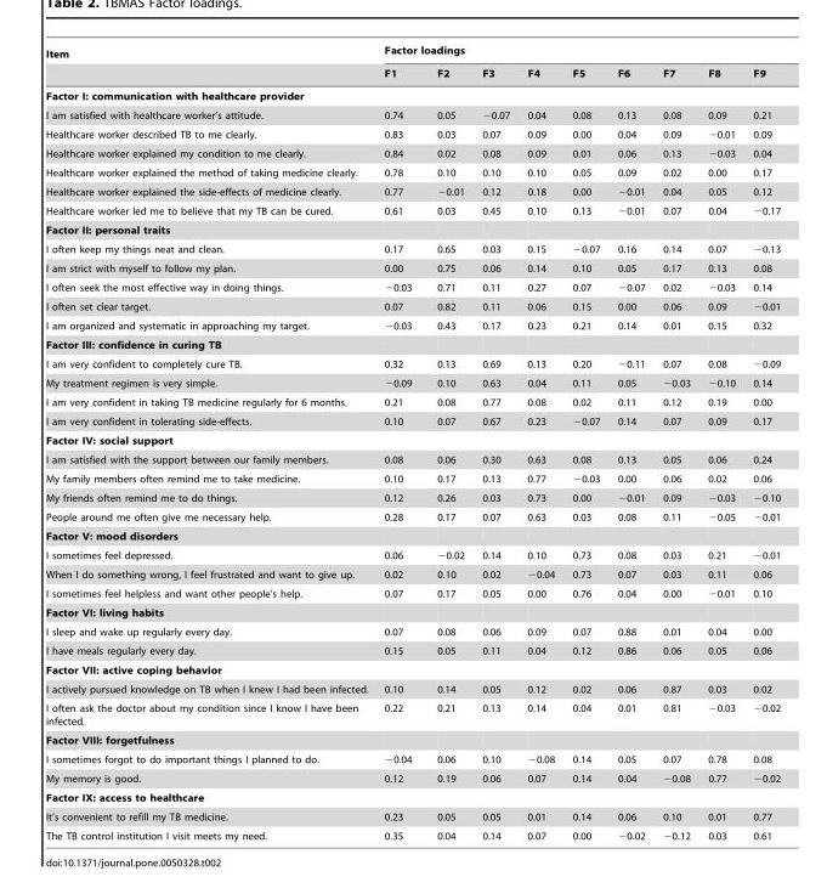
<table><thead><tr><td rowspan="2">Item</td><td colspan="9">Factor loadings</td></tr><tr><td>F1</td><td>F2</td><td>F3</td><td>F4</td><td>F5</td><td>F6</td><td>F7</td><td>F8</td><td>F9</td></tr></thead><tbody><tr><td colspan="10">Factor I: communication with healthcare provider</td></tr><tr><td>I am satisfied with healthcare worker’s attitude.</td><td>0.74</td><td>0.05</td><td>−0.07</td><td>0.04</td><td>0.08</td><td>0.13</td><td>0.08</td><td>0.09</td><td>0.21</td></tr><tr><td>Healthcare worker described TB to me clearly.</td><td>0.83</td><td>0.03</td><td>0.07</td><td>0.09</td><td>0.00</td><td>0.04</td><td>0.09</td><td>−0.01</td><td>0.09</td></tr><tr><td>Healthcare worker explained my condition to me clearly.</td><td>0.84</td><td>0.02</td><td>0.08</td><td>0.09</td><td>0.01</td><td>0.06</td><td>0.13</td><td>−0.03</td><td>0.04</td></tr><tr><td>Healthcare worker explained the method of taking medicine clearly.</td><td>0.78</td><td>0.10</td><td>0.10</td><td>0.10</td><td>0.05</td><td>0.09</td><td>0.02</td><td>0.00</td><td>0.17</td></tr><tr><td>Healthcare worker explained the side-effects of medicine clearly.</td><td>0.77</td><td>−0.01</td><td>0.12</td><td>0.18</td><td>0.00</td><td>−0.01</td><td>0.04</td><td>0.05</td><td>0.12</td></tr><tr><td>Healthcare worker led me to believe that my TB can be cured.</td><td>0.61</td><td>0.03</td><td>0.45</td><td>0.10</td><td>0.13</td><td>−0.01</td><td>0.07</td><td>0.04</td><td>−0.17</td></tr><tr><td colspan="10">Factor II: personal traits</td></tr><tr><td>I often keep my things neat and clean.</td><td>0.17</td><td>0.65</td><td>0.03</td><td>0.15</td><td>−0.07</td><td>0.16</td><td>0.14</td><td>0.07</td><td>−0.13</td></tr><tr><td>I am strict with myself to follow my plan.</td><td>0.00</td><td>0.75</td><td>0.06</td><td>0.14</td><td>0.10</td><td>0.05</td><td>0.17</td><td>0.13</td><td>0.08</td></tr><tr><td>I often seek the most effective way in doing things.</td><td>−0.03</td><td>0.71</td><td>0.11</td><td>0.27</td><td>0.07</td><td>−0.07</td><td>0.02</td><td>−0.03</td><td>0.14</td></tr><tr><td>I often set clear target.</td><td>0.07</td><td>0.82</td><td>0.11</td><td>0.06</td><td>0.15</td><td>0.00</td><td>0.06</td><td>0.09</td><td>−0.01</td></tr><tr><td>I am organized and systematic in approaching my target.</td><td>−0.03</td><td>0.43</td><td>0.17</td><td>0.23</td><td>0.21</td><td>0.14</td><td>0.01</td><td>0.15</td><td>0.32</td></tr><tr><td colspan="10">Factor III: confidence in curing TB</td></tr><tr><td>I am very confident to completely cure TB.</td><td>0.32</td><td>0.13</td><td>0.69</td><td>0.13</td><td>0.20</td><td>−0.11</td><td>0.07</td><td>0.08</td><td>−0.09</td></tr><tr><td>My treatment regimen is very simple.</td><td>−0.09</td><td>0.10</td><td>0.63</td><td>0.04</td><td>0.11</td><td>0.05</td><td>−0.03</td><td>−0.10</td><td>0.14</td></tr><tr><td>I am very confident in taking TB medicine regularly for 6 months.</td><td>0.21</td><td>0.08</td><td>0.77</td><td>0.08</td><td>0.02</td><td>0.11</td><td>0.12</td><td>0.19</td><td>0.00</td></tr><tr><td>I am very confident in tolerating side-effects.</td><td>0.10</td><td>0.07</td><td>0.67</td><td>0.23</td><td>−0.07</td><td>0.14</td><td>0.07</td><td>0.09</td><td>0.17</td></tr><tr><td colspan="10">Factor IV: social support</td></tr><tr><td>I am satisfied with the support between our family members.</td><td>0.08</td><td>0.06</td><td>0.30</td><td>0.63</td><td>0.08</td><td>0.13</td><td>0.05</td><td>0.06</td><td>0.24</td></tr><tr><td>My family members often remind me to take medicine.</td><td>0.10</td><td>0.17</td><td>0.13</td><td>0.77</td><td>−0.03</td><td>0.00</td><td>0.06</td><td>0.02</td><td>0.06</td></tr><tr><td>My friends often remind me to do things.</td><td>0.12</td><td>0.26</td><td>0.03</td><td>0.73</td><td>0.00</td><td>−0.01</td><td>0.09</td><td>−0.03</td><td>−0.10</td></tr><tr><td>People around me often give me necessary help.</td><td>0.28</td><td>0.17</td><td>0.07</td><td>0.63</td><td>0.03</td><td>0.08</td><td>0.11</td><td>−0.05</td><td>−0.01</td></tr><tr><td colspan="10">Factor V: mood disorders</td></tr><tr><td>I sometimes feel depressed.</td><td>0.06</td><td>−0.02</td><td>0.14</td><td>0.10</td><td>0.73</td><td>0.08</td><td>0.03</td><td>0.21</td><td>−0.01</td></tr><tr><td>When I do something wrong, I feel frustrated and want to give up.</td><td>0.02</td><td>0.10</td><td>0.02</td><td>−0.04</td><td>0.73</td><td>0.07</td><td>0.03</td><td>0.11</td><td>0.06</td></tr><tr><td>I sometimes feel helpless and want other people’s help.</td><td>0.07</td><td>0.17</td><td>0.05</td><td>0.00</td><td>0.76</td><td>0.04</td><td>0.00</td><td>−0.01</td><td>0.10</td></tr><tr><td colspan="10">Factor VI: living habits</td></tr><tr><td>I sleep and wake up regularly every day.</td><td>0.07</td><td>0.08</td><td>0.06</td><td>0.09</td><td>0.07</td><td>0.88</td><td>0.01</td><td>0.04</td><td>0.00</td></tr><tr><td>I have meals regularly every day.</td><td>0.15</td><td>0.05</td><td>0.11</td><td>0.04</td><td>0.12</td><td>0.86</td><td>0.06</td><td>0.05</td><td>0.06</td></tr><tr><td colspan="10">Factor VII: active coping behavior</td></tr><tr><td>I actively pursued knowledge on TB when I knew I had been infected.</td><td>0.10</td><td>0.14</td><td>0.05</td><td>0.12</td><td>0.02</td><td>0.06</td><td>0.87</td><td>0.03</td><td>0.02</td></tr><tr><td>I often ask the doctor about my condition since I know I have been infected.</td><td>0.22</td><td>0.21</td><td>0.13</td><td>0.14</td><td>0.04</td><td>0.01</td><td>0.81</td><td>−0.03</td><td>−0.02</td></tr><tr><td colspan="10">Factor VIII: forgetfulness</td></tr><tr><td>I sometimes forgot to do important things I planned to do.</td><td>−0.04</td><td>0.06</td><td>0.10</td><td>−0.08</td><td>0.14</td><td>0.05</td><td>0.07</td><td>0.78</td><td>0.08</td></tr><tr><td>My memory is good.</td><td>0.12</td><td>0.19</td><td>0.06</td><td>0.07</td><td>0.14</td><td>0.04</td><td>−0.08</td><td>0.77</td><td>−0.02</td></tr><tr><td colspan="10">Factor IX: access to healthcare</td></tr><tr><td>It’s convenient to refill my TB medicine.</td><td>0.23</td><td>0.05</td><td>0.05</td><td>0.01</td><td>0.14</td><td>0.06</td><td>0.10</td><td>0.01</td><td>0.77</td></tr><tr><td>The TB control institution I visit meets my need.</td><td>0.35</td><td>0.04</td><td>0.14</td><td>0.07</td><td>0.00</td><td>−0.02</td><td>−0.12</td><td>0.03</td><td>0.61</td></tr></tbody></table>